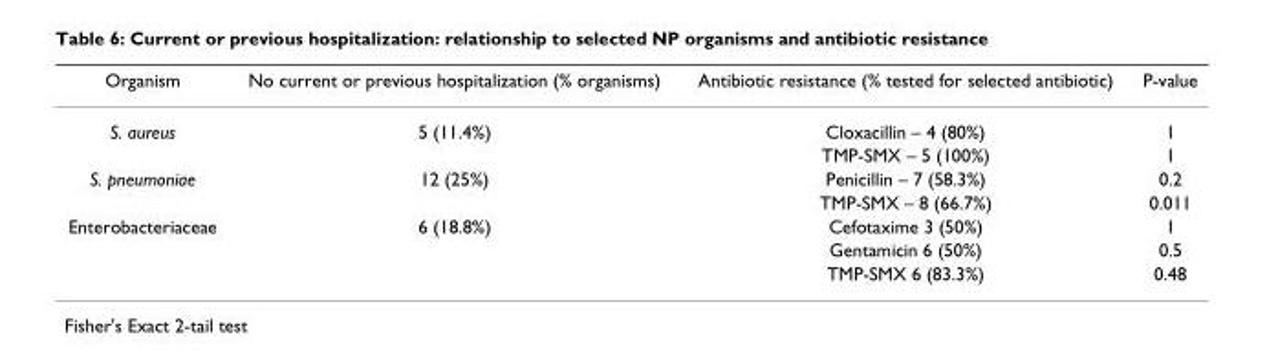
<table><thead><tr><td>Organism</td><td>No current or previous hospitalization (% organisms)</td><td>Antibiotic resistance (% tested for selected antibiotic)</td><td>P-value</td></tr></thead><tbody><tr><td rowspan="2">S. aureus</td><td>5 (11.4%)</td><td>Cloxacillin – 4 (80%)</td><td>1</td></tr><tr><td></td><td>TMP-SMX – 5 (100%)</td><td>1</td></tr><tr><td rowspan="2">S. pneumoniae</td><td>12 (25%)</td><td>Penicillin – 7 (58.3%)</td><td>0.2</td></tr><tr><td></td><td>TMP-SMX – 8 (66.7%)</td><td>0.011</td></tr><tr><td rowspan="3">Enterobacteriaceae</td><td>6 (18.8%)</td><td>Cefotaxime 3 (50%)</td><td>1</td></tr><tr><td></td><td>Gentamicin 6 (50%)</td><td>0.5</td></tr><tr><td></td><td>TMP-SMX 6 (83.3%)</td><td>0.48</td></tr></tbody></table>